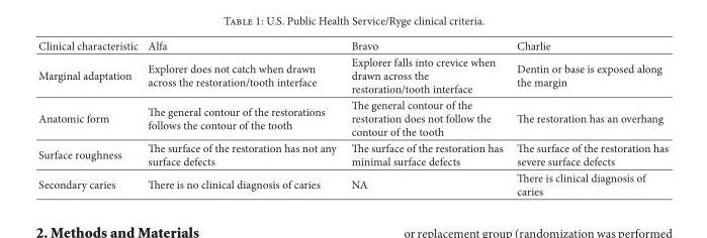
<table><thead><tr><td>Clinical characteristic</td><td>Alfa</td><td>Bravo</td><td>Charlie</td></tr></thead><tbody><tr><td>Marginal adaptation</td><td>Explorer does not catch when drawn across the restoration/tooth interface</td><td>Explorer falls into crevice when drawn across the restoration/tooth interface</td><td>Dentin or base is exposed along the margin</td></tr><tr><td>Anatomic form</td><td>e general contour of the restorations follows the contour of the tooth</td><td>e general contour of the restoration does not follow the contour of the tooth</td><td>e restoration has an overhang</td></tr><tr><td>Surface roughness</td><td>e surface of the restoration has not any surface defects</td><td>e surface of the restoration has minimal surface defects</td><td>e surface of the restoration has severe surface defects</td></tr><tr><td>Secondary caries</td><td>ere is no clinical diagnosis of caries</td><td>NA</td><td>ere is clinical diagnosis of caries</td></tr></tbody></table>